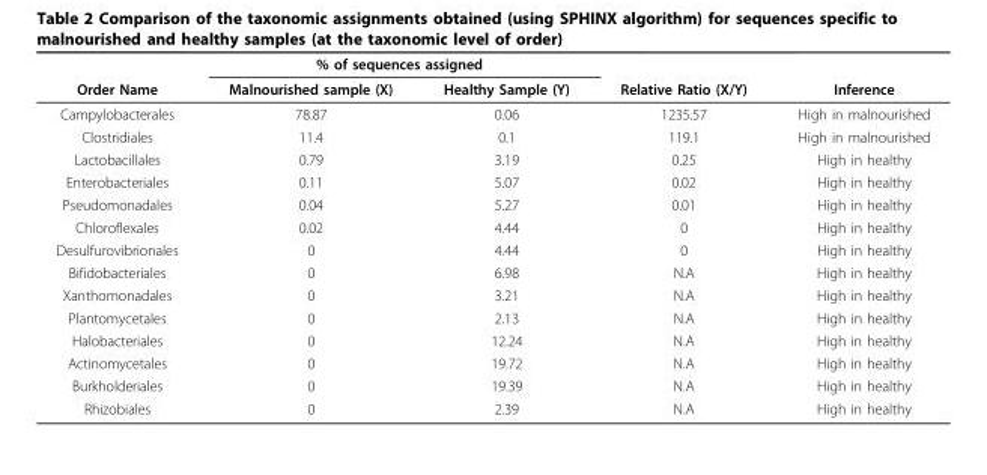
<table><thead><tr><td rowspan="2">Order Name</td><td colspan="2">% of sequences assigned</td><td rowspan="2">Relative Ratio (X/Y)</td><td rowspan="2">Inference</td></tr><tr><td>Malnourished sample (X)</td><td>Healthy Sample (Y)</td></tr></thead><tbody><tr><td>Campylobacterales</td><td>78.87</td><td>0.06</td><td>1235.57</td><td>High in malnourished</td></tr><tr><td>Clostridiales</td><td>11.4</td><td>0.1</td><td>119.1</td><td>High in malnourished</td></tr><tr><td>Lactobacillales</td><td>0.79</td><td>3.19</td><td>0.25</td><td>High in healthy</td></tr><tr><td>Enterobacteriales</td><td>0.11</td><td>5.07</td><td>0.02</td><td>High in healthy</td></tr><tr><td>Pseudomonadales</td><td>0.04</td><td>5.27</td><td>0.01</td><td>High in healthy</td></tr><tr><td>Chloroflexales</td><td>0.02</td><td>4.44</td><td>0</td><td>High in healthy</td></tr><tr><td>Desulfurovibrionales</td><td>0</td><td>4.44</td><td>0</td><td>High in healthy</td></tr><tr><td>Bifidobacteriales</td><td>0</td><td>6.98</td><td>N.A</td><td>High in healthy</td></tr><tr><td>Xanthomonadales</td><td>0</td><td>3.21</td><td>N.A</td><td>High in healthy</td></tr><tr><td>Plantomycetales</td><td>0</td><td>2.13</td><td>N.A</td><td>High in healthy</td></tr><tr><td>Halobacteriales</td><td>0</td><td>12.24</td><td>N.A</td><td>High in healthy</td></tr><tr><td>Actinomycetales</td><td>0</td><td>19.72</td><td>N.A</td><td>High in healthy</td></tr><tr><td>Burkholderiales</td><td>0</td><td>19.39</td><td>N.A</td><td>High in healthy</td></tr><tr><td>Rhizobiales</td><td>0</td><td>2.39</td><td>N.A</td><td>High in healthy</td></tr></tbody></table>